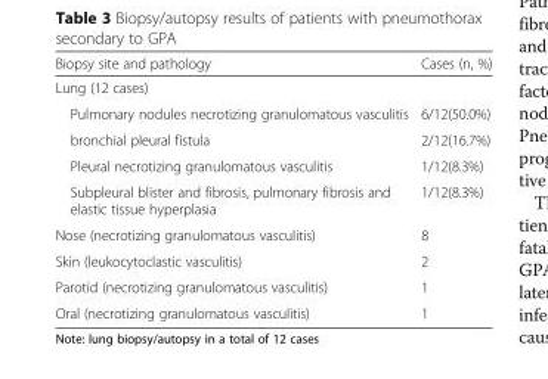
<table><thead><tr><td>Biopsy site and pathology</td><td>Cases (n, %)</td></tr></thead><tbody><tr><td colspan="2">Lung (12 cases)</td></tr><tr><td>Pulmonary nodules necrotizing granulomatous vasculitis</td><td>6/12(50.0%)</td></tr><tr><td>bronchial pleural fistula</td><td>2/12(16.7%)</td></tr><tr><td>Pleural necrotizing granulomatous vasculitis</td><td>1/12(8.3%)</td></tr><tr><td>Subpleural blister and fibrosis, pulmonary fibrosis and elastic tissue hyperplasia</td><td>1/12(8.3%)</td></tr><tr><td>Nose (necrotizing granulomatous vasculitis)</td><td>8</td></tr><tr><td>Skin (leukocytoclastic vasculitis)</td><td>2</td></tr><tr><td>Parotid (necrotizing granulomatous vasculitis)</td><td>1</td></tr><tr><td>Oral (necrotizing granulomatous vasculitis)</td><td>1</td></tr></tbody></table>